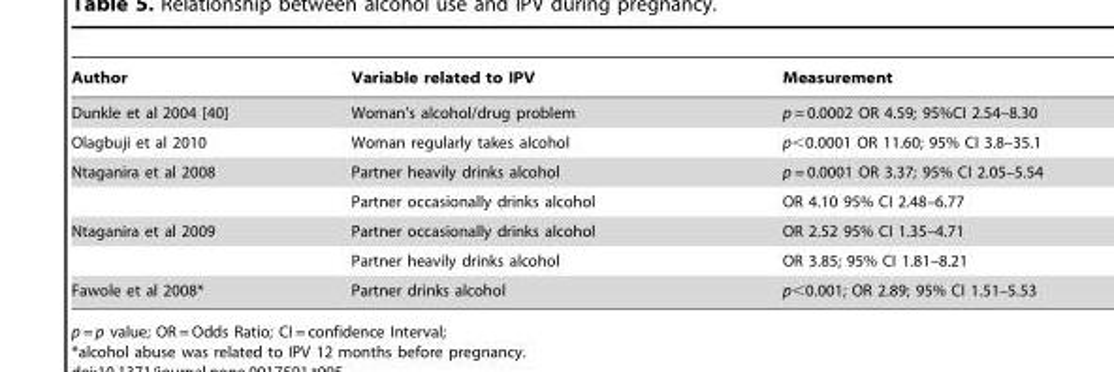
<table><thead><tr><td>Author</td><td>Variable related to IPV</td><td>Measurement</td></tr></thead><tbody><tr><td>Dunkle et al 2004 [40]</td><td>Woman’s alcohol/drug problem</td><td>p = 0.0002 OR 4.59; 95%CI 2.54–8.30</td></tr><tr><td>Olagbuji et al 2010</td><td>Woman regularly takes alcohol</td><td>p&lt;0.0001 OR 11.60; 95% CI 3.8–35.1</td></tr><tr><td rowspan="2">Ntaganira et al 2008</td><td>Partner heavily drinks alcohol</td><td>p = 0.0001 OR 3.37; 95% CI 2.05–5.54</td></tr><tr><td>Partner occasionally drinks alcohol</td><td>OR 4.10 95% CI 2.48–6.77</td></tr><tr><td rowspan="2">Ntaganira et al 2009</td><td>Partner occasionally drinks alcohol</td><td>OR 2.52 95% CI 1.35–4.71</td></tr><tr><td>Partner heavily drinks alcohol</td><td>OR 3.85; 95% CI 1.81–8.21</td></tr><tr><td>Fawole et al 2008*</td><td>Partner drinks alcohol</td><td>p&lt;0.001; OR 2.89; 95% CI 1.51–5.53</td></tr></tbody></table>